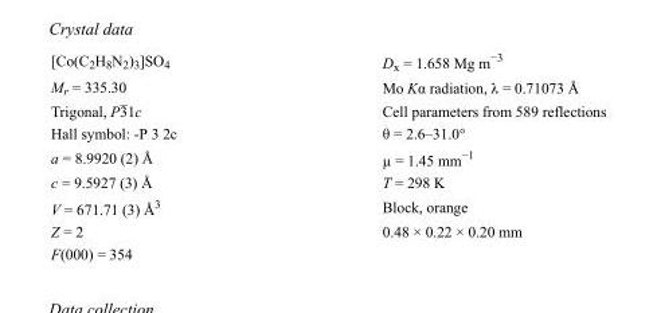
<table><tbody><tr><td>[Co(C<sub>2</sub>H<sub>8</sub>N<sub>2</sub>)<sub>3</sub>]SO<sub>4</sub></td><td>D<sub>x</sub> = 1.658 Mg m<sup>−3</sup></td></tr><tr><td>M<sub>r</sub> = 335.30</td><td>Mo Kα radiation, λ = 0.71073 Å</td></tr><tr><td>Trigonal, P31c</td><td>Cell parameters from 589 reflections</td></tr><tr><td>Hall symbol: -P 3 2c</td><td>θ = 2.6–31.0°</td></tr><tr><td>a = 8.9920 (2) Å</td><td>µ = 1.45 mm<sup>−1</sup></td></tr><tr><td>c = 9.5927 (3) Å</td><td>T = 298 K</td></tr><tr><td>V = 671.71 (3) Å<sup>3</sup></td><td>Block, orange</td></tr><tr><td>Z = 2</td><td>0.48 × 0.22 × 0.20 mm</td></tr><tr><td>F(000) = 354</td><td></td></tr></tbody></table>